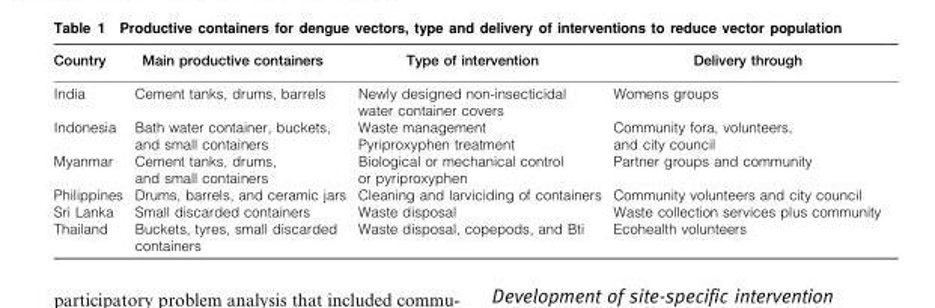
<table><thead><tr><td>Country</td><td>Main productive containers</td><td>Type of intervention</td><td>Delivery through</td></tr></thead><tbody><tr><td>India</td><td>Cement tanks, drums, barrels</td><td>Newly designed non-insecticidal water container covers</td><td>Womens groups</td></tr><tr><td>Indonesia</td><td>Bath water container, buckets, and small containers</td><td>Waste management Pyriproxyphen treatment</td><td>Community fora, volunteers, and city council</td></tr><tr><td>Myanmar</td><td>Cement tanks, drums, and small containers</td><td>Biological or mechanical control or pyriproxyphen</td><td>Partner groups and community</td></tr><tr><td>Philippines</td><td>Drums, barrels, and ceramic jars</td><td>Cleaning and larviciding of containers</td><td>Community volunteers and city council</td></tr><tr><td>Sri Lanka</td><td>Small discarded containers</td><td>Waste disposal</td><td>Waste collection services plus community</td></tr><tr><td>Thailand</td><td>Buckets, tyres, small discarded containers</td><td>Waste disposal, copepods, and Bti</td><td>Ecohealth volunteers</td></tr></tbody></table>